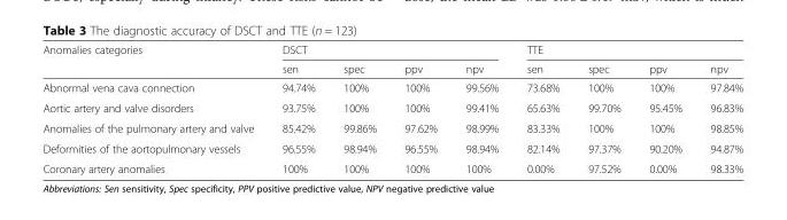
<table><thead><tr><td rowspan="2">Anomalies categories</td><td colspan="4">DSCT</td><td colspan="4">TTE</td></tr><tr><td>sen</td><td>spec</td><td>ppv</td><td>npv</td><td>sen</td><td>spec</td><td>ppv</td><td>npv</td></tr></thead><tbody><tr><td>Abnormal vena cava connection</td><td>94.74%</td><td>100%</td><td>100%</td><td>99.56%</td><td>73.68%</td><td>100%</td><td>100%</td><td>97.84%</td></tr><tr><td>Aortic artery and valve disorders</td><td>93.75%</td><td>100%</td><td>100%</td><td>99.41%</td><td>65.63%</td><td>99.70%</td><td>95.45%</td><td>96.83%</td></tr><tr><td>Anomalies of the pulmonary artery and valve</td><td>85.42%</td><td>99.86%</td><td>97.62%</td><td>98.99%</td><td>83.33%</td><td>100%</td><td>100%</td><td>98.85%</td></tr><tr><td>Deformities of the aortopulmonary vessels</td><td>96.55%</td><td>98.94%</td><td>96.55%</td><td>98.94%</td><td>82.14%</td><td>97.37%</td><td>90.20%</td><td>94.87%</td></tr><tr><td>Coronary artery anomalies</td><td>100%</td><td>100%</td><td>100%</td><td>100%</td><td>0.00%</td><td>97.52%</td><td>0.00%</td><td>98.33%</td></tr></tbody></table>